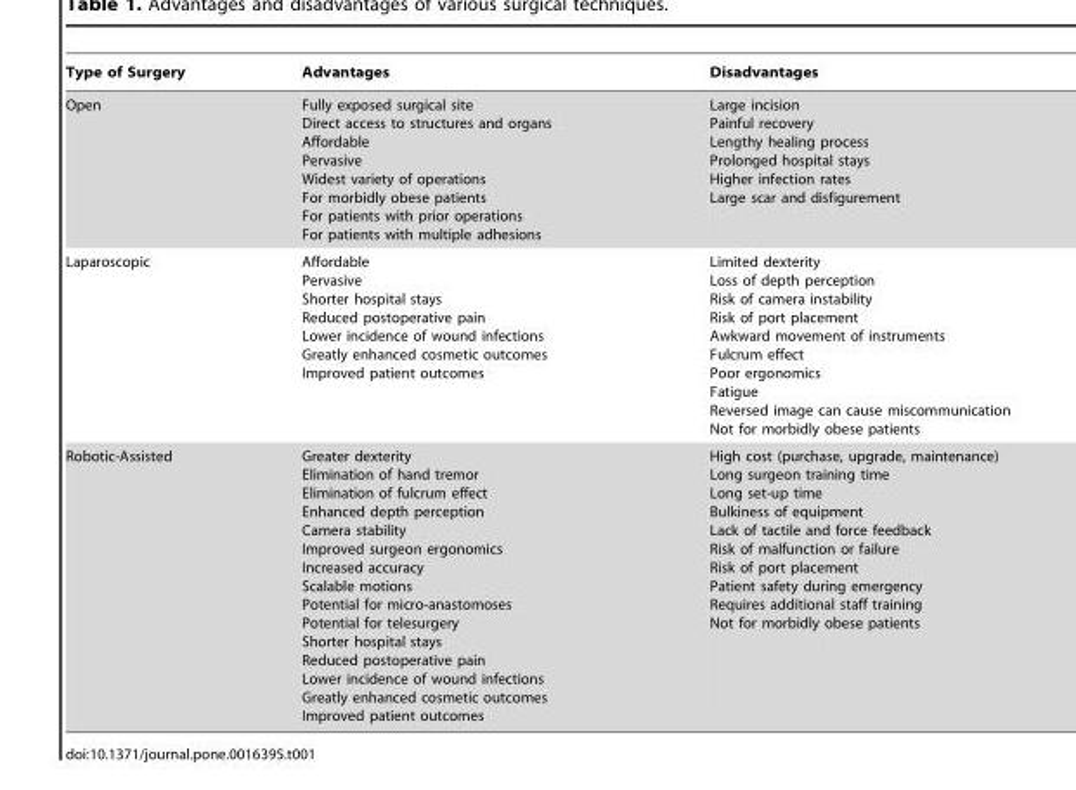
<table><thead><tr><td>Type of Surgery</td><td>Advantages</td><td>Disadvantages</td></tr></thead><tbody><tr><td>Open</td><td>Fully exposed surgical site Direct access to structures and organs Affordable Pervasive Widest variety of operations For morbidly obese patients For patients with prior operations For patients with multiple adhesions</td><td>Large incision Painful recovery Lengthy healing process Prolonged hospital stays Higher infection rates Large scar and disfigurement</td></tr><tr><td>Laparoscopic</td><td>Affordable Pervasive Shorter hospital stays Reduced postoperative pain Lower incidence of wound infections Greatly enhanced cosmetic outcomes Improved patient outcomes</td><td>Limited dexterity Loss of depth perception Risk of camera instability Risk of port placement Awkward movement of instruments Fulcrum effect Poor ergonomics Fatigue Reversed image can cause miscommunication Not for morbidly obese patients</td></tr><tr><td>Robotic-Assisted</td><td>Greater dexterity Elimination of hand tremor Elimination of fulcrum effect Enhanced depth perception Camera stability Improved surgeon ergonomics Increased accuracy Scalable motions Potential for micro-anastomoses Potential for telesurgery Shorter hospital stays Reduced postoperative pain Lower incidence of wound infections Greatly enhanced cosmetic outcomes Improved patient outcomes</td><td>High cost (purchase, upgrade, maintenance) Long surgeon training time Long set-up time Bulkiness of equipment Lack of tactile and force feedback Risk of malfunction or failure Risk of port placement Patient safety during emergency Requires additional staff training Not for morbidly obese patients</td></tr></tbody></table>